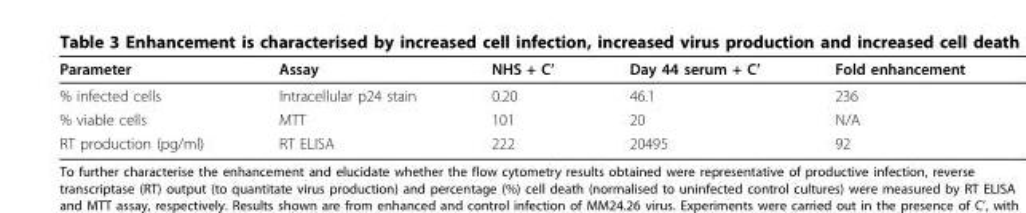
<table><thead><tr><td>Parameter</td><td>Assay</td><td>NHS + C’</td><td>Day 44 serum + C’</td><td>Fold enhancement</td></tr></thead><tbody><tr><td>% infected cells</td><td>Intracellular p24 stain</td><td>0.20</td><td>46.1</td><td>236</td></tr><tr><td>% viable cells</td><td>MTT</td><td>101</td><td>20</td><td>N/A</td></tr><tr><td>RT production (pg/ml)</td><td>RT ELISA</td><td>222</td><td>20495</td><td>92</td></tr></tbody></table>